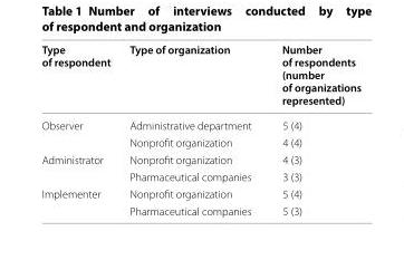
<table><thead><tr><td>Type of respondent</td><td>Type of organization</td><td>Number of respondents (number of organizations represented)</td></tr></thead><tbody><tr><td rowspan="2">Observer</td><td>Administrative department</td><td>5 (4)</td></tr><tr><td>Nonprofit organization</td><td>4 (4)</td></tr><tr><td rowspan="2">Administrator</td><td>Nonprofit organization</td><td>4 (3)</td></tr><tr><td>Pharmaceutical companies</td><td>3 (3)</td></tr><tr><td rowspan="2">Implementer</td><td>Nonprofit organization</td><td>5 (4)</td></tr><tr><td>Pharmaceutical companies</td><td>5 (3)</td></tr></tbody></table>